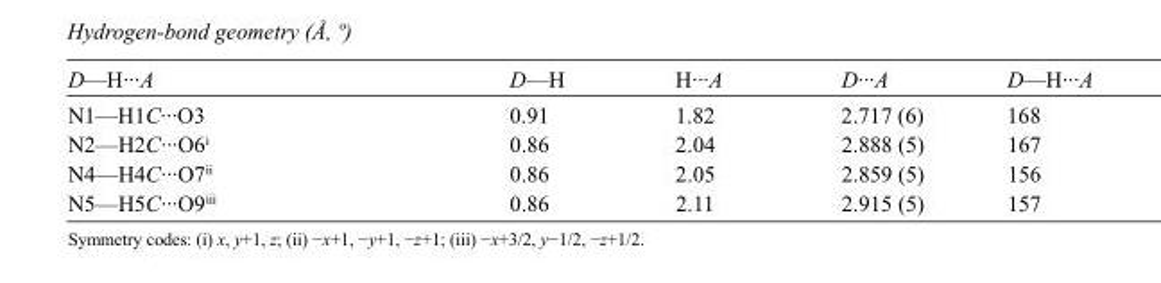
<table><tbody><tr><td>D—H···A</td><td>D—H</td><td>H···A</td><td>D···A</td><td>D—H···A</td></tr><tr><td>N1—H1C···O3</td><td>0.91</td><td>1.82</td><td>2.717 (6)</td><td>168</td></tr><tr><td>N2—H2C···O6<sup>i</sup></td><td>0.86</td><td>2.04</td><td>2.888 (5)</td><td>167</td></tr><tr><td>N4—H4C···O7<sup>ii</sup></td><td>0.86</td><td>2.05</td><td>2.859 (5)</td><td>156</td></tr><tr><td>N5—H5C···O9<sup>iii</sup></td><td>0.86</td><td>2.11</td><td>2.915 (5)</td><td>157</td></tr></tbody></table>